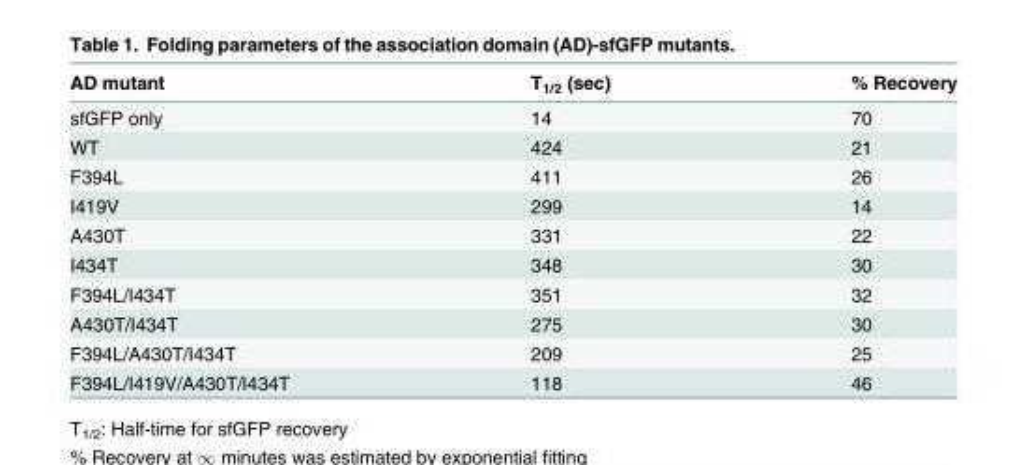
<table><thead><tr><td>AD mutant</td><td>T<sub>1/2</sub> (sec)</td><td>% Recovery</td></tr></thead><tbody><tr><td>sfGFP only</td><td>14</td><td>70</td></tr><tr><td>WT</td><td>424</td><td>21</td></tr><tr><td>F394L</td><td>411</td><td>26</td></tr><tr><td>I419V</td><td>299</td><td>14</td></tr><tr><td>A430T</td><td>331</td><td>22</td></tr><tr><td>I434T</td><td>348</td><td>30</td></tr><tr><td>F394L/I434T</td><td>351</td><td>32</td></tr><tr><td>A430T/I434T</td><td>275</td><td>30</td></tr><tr><td>F394L/A430T/I434T</td><td>209</td><td>25</td></tr><tr><td>F394L/I419V/A430T/I434T</td><td>118</td><td>46</td></tr></tbody></table>